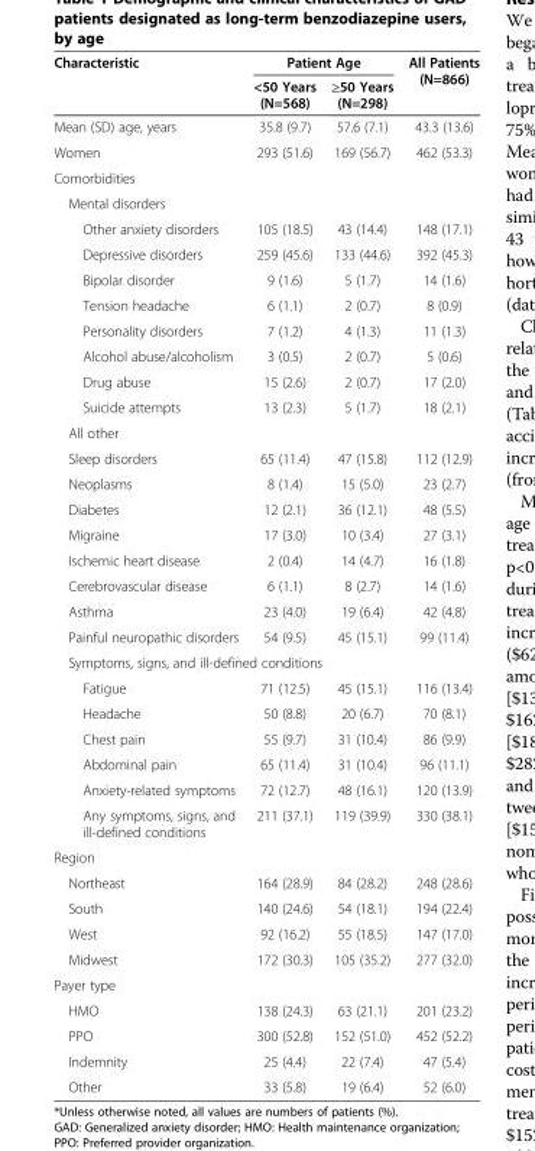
<table><thead><tr><td rowspan="2">Characteristic</td><td colspan="2">Patient Age</td><td rowspan="2">All Patients (N=866)</td></tr><tr><td>&lt;50 Years (N=568)</td><td>≥50 Years (N=298)</td></tr></thead><tbody><tr><td>Mean (SD) age, years</td><td>35.8 (9.7)</td><td>57.6 (7.1)</td><td>43.3 (13.6)</td></tr><tr><td>Women</td><td>293 (51.6)</td><td>169 (56.7)</td><td>462 (53.3)</td></tr><tr><td colspan="4">Comorbidities</td></tr><tr><td colspan="4">Mental disorders</td></tr><tr><td>Other anxiety disorders</td><td>105 (18.5)</td><td>43 (14.4)</td><td>148 (17.1)</td></tr><tr><td>Depressive disorders</td><td>259 (45.6)</td><td>133 (44.6)</td><td>392 (45.3)</td></tr><tr><td>Bipolar disorder</td><td>9 (1.6)</td><td>5 (1.7)</td><td>14 (1.6)</td></tr><tr><td>Tension headache</td><td>6 (1.1)</td><td>2 (0.7)</td><td>8 (0.9)</td></tr><tr><td>Personality disorders</td><td>7 (1.2)</td><td>4 (1.3)</td><td>11 (1.3)</td></tr><tr><td>Alcohol abuse/alcoholism</td><td>3 (0.5)</td><td>2 (0.7)</td><td>5 (0.6)</td></tr><tr><td>Drug abuse</td><td>15 (2.6)</td><td>2 (0.7)</td><td>17 (2.0)</td></tr><tr><td>Suicide attempts</td><td>13 (2.3)</td><td>5 (1.7)</td><td>18 (2.1)</td></tr><tr><td colspan="4">All other</td></tr><tr><td>Sleep disorders</td><td>65 (11.4)</td><td>47 (15.8)</td><td>112 (12.9)</td></tr><tr><td>Neoplasms</td><td>8 (1.4)</td><td>15 (5.0)</td><td>23 (2.7)</td></tr><tr><td>Diabetes</td><td>12 (2.1)</td><td>36 (12.1)</td><td>48 (5.5)</td></tr><tr><td>Migraine</td><td>17 (3.0)</td><td>10 (3.4)</td><td>27 (3.1)</td></tr><tr><td>Ischemic heart disease</td><td>2 (0.4)</td><td>14 (4.7)</td><td>16 (1.8)</td></tr><tr><td>Cerebrovascular disease</td><td>6 (1.1)</td><td>8 (2.7)</td><td>14 (1.6)</td></tr><tr><td>Asthma</td><td>23 (4.0)</td><td>19 (6.4)</td><td>42 (4.8)</td></tr><tr><td>Painful neuropathic disorders</td><td>54 (9.5)</td><td>45 (15.1)</td><td>99 (11.4)</td></tr><tr><td colspan="4">Symptoms, signs, and ill-defined conditions</td></tr><tr><td>Fatigue</td><td>71 (12.5)</td><td>45 (15.1)</td><td>116 (13.4)</td></tr><tr><td>Headache</td><td>50 (8.8)</td><td>20 (6.7)</td><td>70 (8.1)</td></tr><tr><td>Chest pain</td><td>55 (9.7)</td><td>31 (10.4)</td><td>86 (9.9)</td></tr><tr><td>Abdominal pain</td><td>65 (11.4)</td><td>31 (10.4)</td><td>96 (11.1)</td></tr><tr><td>Anxiety-related symptoms</td><td>72 (12.7)</td><td>48 (16.1)</td><td>120 (13.9)</td></tr><tr><td>Any symptoms, signs, and ill-defined conditions</td><td>211 (37.1)</td><td>119 (39.9)</td><td>330 (38.1)</td></tr><tr><td colspan="4">Region</td></tr><tr><td>Northeast</td><td>164 (28.9)</td><td>84 (28.2)</td><td>248 (28.6)</td></tr><tr><td>South</td><td>140 (24.6)</td><td>54 (18.1)</td><td>194 (22.4)</td></tr><tr><td>West</td><td>92 (16.2)</td><td>55 (18.5)</td><td>147 (17.0)</td></tr><tr><td>Midwest</td><td>172 (30.3)</td><td>105 (35.2)</td><td>277 (32.0)</td></tr><tr><td colspan="4">Payer type</td></tr><tr><td>HMO</td><td>138 (24.3)</td><td>63 (21.1)</td><td>201 (23.2)</td></tr><tr><td>PPO</td><td>300 (52.8)</td><td>152 (51.0)</td><td>452 (52.2)</td></tr><tr><td>Indemnity</td><td>25 (4.4)</td><td>22 (7.4)</td><td>47 (5.4)</td></tr><tr><td>Other</td><td>33 (5.8)</td><td>19 (6.4)</td><td>52 (6.0)</td></tr></tbody></table>